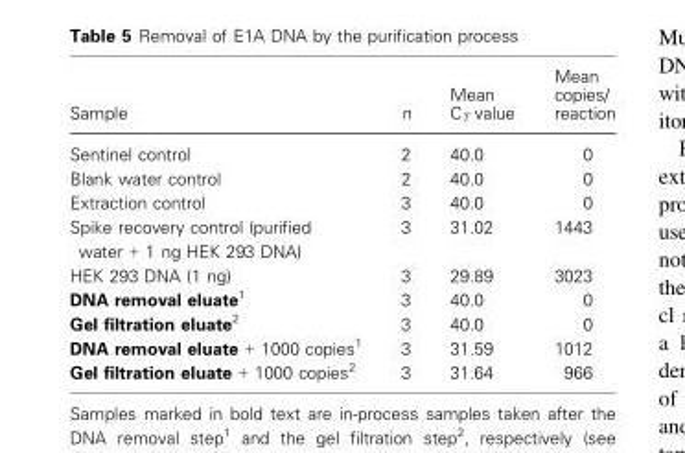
<table><thead><tr><td>Sample</td><td>n</td><td>Mean C<sub>T</sub> value</td><td>Mean copies/ reaction</td></tr></thead><tbody><tr><td>Sentinel control</td><td>2</td><td>40.0</td><td>0</td></tr><tr><td>Blank water control</td><td>2</td><td>40.0</td><td>0</td></tr><tr><td>Extraction control</td><td>3</td><td>40.0</td><td>0</td></tr><tr><td>Spike recovery control (purified water + 1 ng HEK 293 DNA)</td><td>3</td><td>31.02</td><td>1443</td></tr><tr><td>HEK 293 DNA (1 ng)</td><td>3</td><td>29.89</td><td>3023</td></tr><tr><td>DNA removal eluate<sup>1</sup></td><td>3</td><td>40.0</td><td>0</td></tr><tr><td>Gel filtration eluate<sup>2</sup></td><td>3</td><td>40.0</td><td>0</td></tr><tr><td>DNA removal eluate + 1000 copies<sup>1</sup></td><td>3</td><td>31.59</td><td>1012</td></tr><tr><td>Gel filtration eluate + 1000 copies<sup>2</sup></td><td>3</td><td>31.64</td><td>966</td></tr></tbody></table>